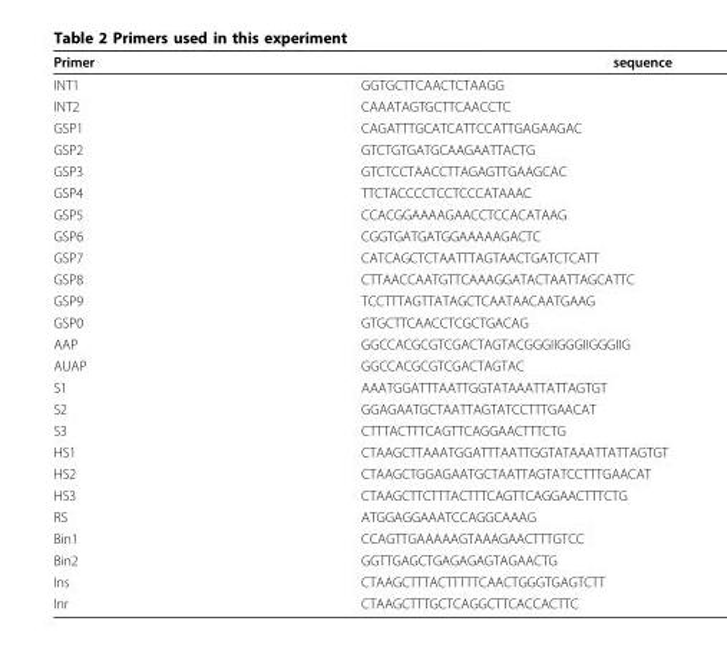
<table><thead><tr><td>Primer</td><td>sequence</td></tr></thead><tbody><tr><td>INT1</td><td>GGTGCTTCAACTCTAAGG</td></tr><tr><td>INT2</td><td>CAAATAGTGCTTCAACCTC</td></tr><tr><td>GSP1</td><td>CAGATTTGCATCATTCCATTGAGAAGAC</td></tr><tr><td>GSP2</td><td>GTCTGTGATGCAAGAATTACTG</td></tr><tr><td>GSP3</td><td>GTCTCCTAACCTTAGAGTTGAAGCAC</td></tr><tr><td>GSP4</td><td>TTCTACCCCTCCTCCCATAAAC</td></tr><tr><td>GSP5</td><td>CCACGGAAAAGAACCTCCACATAAG</td></tr><tr><td>GSP6</td><td>CGGTGATGATGGAAAAAGACTC</td></tr><tr><td>GSP7</td><td>CATCAGCTCTAATTTAGTAACTGATCTCATT</td></tr><tr><td>GSP8</td><td>CTTAACCAATGTTCAAAGGATACTAATTAGCATTC</td></tr><tr><td>GSP9</td><td>TCCTTTAGTTATAGCTCAATAACAATGAAG</td></tr><tr><td>GSP0</td><td>GTGCTTCAACCTCGCTGACAG</td></tr><tr><td>AAP</td><td>GGCCACGCGTCGACTAGTACGGGIIGGGIIGGGIIG</td></tr><tr><td>AUAP</td><td>GGCCACGCGTCGACTAGTAC</td></tr><tr><td>S1</td><td>AAATGGATTTAATTGGTATAAATTATTAGTGT</td></tr><tr><td>S2</td><td>GGAGAATGCTAATTAGTATCCTTTGAACAT</td></tr><tr><td>S3</td><td>CTTTACTTTCAGTTCAGGAACTTTCTG</td></tr><tr><td>HS1</td><td>CTAAGCTTAAATGGATTTAATTGGTATAAATTATTAGTGT</td></tr><tr><td>HS2</td><td>CTAAGCTGGAGAATGCTAATTAGTATCCTTTGAACAT</td></tr><tr><td>HS3</td><td>CTAAGCTTCTTTACTTTCAGTTCAGGAACTTTCTG</td></tr><tr><td>RS</td><td>ATGGAGGAAATCCAGGCAAAG</td></tr><tr><td>Bin1</td><td>CCAGTTGAAAAAGTAAAGAACTTTGTCC</td></tr><tr><td>Bin2</td><td>GGTTGAGCTGAGAGAGTAGAACTG</td></tr><tr><td>Ins</td><td>CTAAGCTTTACTTTTTCAACTGGGTGAGTCTT</td></tr><tr><td>Inr</td><td>CTAAGCTTTGCTCAGGCTTCACCACTTC</td></tr></tbody></table>